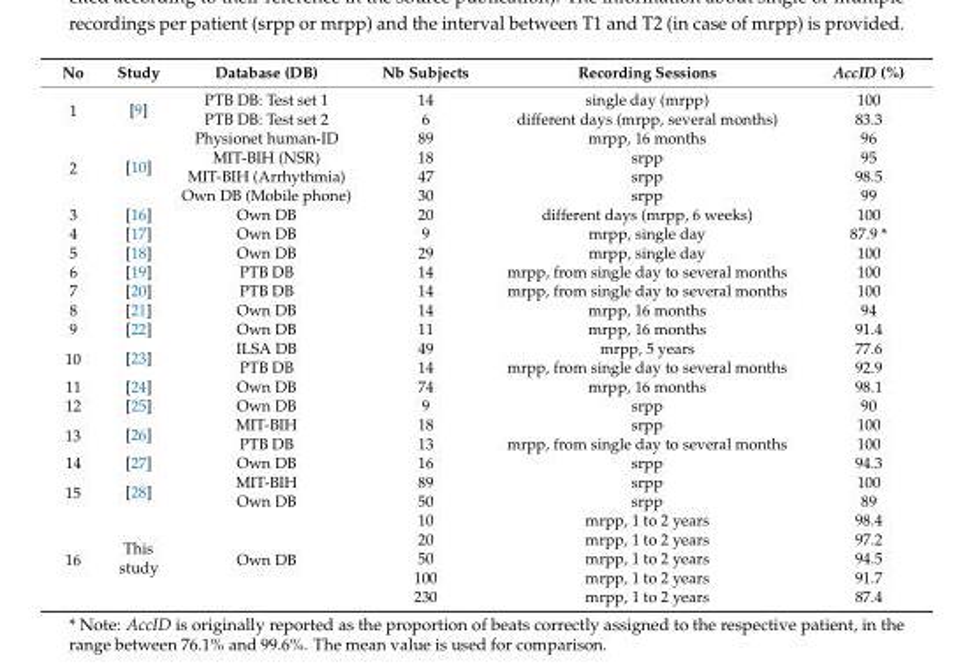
<table><thead><tr><td>No</td><td>Study</td><td>Database (DB)</td><td>Nb Subjects</td><td>Recording Sessions</td><td>AccID (%)</td></tr></thead><tbody><tr><td rowspan="2">1</td><td rowspan="2">[9]</td><td>PTB DB: Test set 1</td><td>14</td><td>single day (mrpp)</td><td>100</td></tr><tr><td>PTB DB: Test set 2</td><td>6</td><td>different days (mrpp, several months)</td><td>83.3</td></tr><tr><td rowspan="4">2</td><td rowspan="4">[10]</td><td>Physionet human-ID</td><td>89</td><td>mrpp, 16 months</td><td>96</td></tr><tr><td>MIT-BIH (NSR)</td><td>18</td><td>srpp</td><td>95</td></tr><tr><td>MIT-BIH (Arrhythmia)</td><td>47</td><td>srpp</td><td>98.5</td></tr><tr><td>Own DB (Mobile phone)</td><td>30</td><td>srpp</td><td>99</td></tr><tr><td>3</td><td>[16]</td><td>Own DB</td><td>20</td><td>different days (mrpp, 6 weeks)</td><td>100</td></tr><tr><td>4</td><td>[17]</td><td>Own DB</td><td>9</td><td>mrpp, single day</td><td>87.9 *</td></tr><tr><td>5</td><td>[18]</td><td>Own DB</td><td>29</td><td>mrpp, single day</td><td>100</td></tr><tr><td>6</td><td>[19]</td><td>PTB DB</td><td>14</td><td>mrpp, from single day to several months</td><td>100</td></tr><tr><td>7</td><td>[20]</td><td>PTB DB</td><td>14</td><td>mrpp, from single day to several months</td><td>100</td></tr><tr><td>8</td><td>[21]</td><td>Own DB</td><td>14</td><td>mrpp, 16 months</td><td>94</td></tr><tr><td>9</td><td>[22]</td><td>Own DB</td><td>11</td><td>mrpp, 16 months</td><td>91.4</td></tr><tr><td rowspan="2">10</td><td rowspan="2">[23]</td><td>ILSA DB</td><td>49</td><td>mrpp, 5 years</td><td>77.6</td></tr><tr><td>PTB DB</td><td>14</td><td>mrpp, from single day to several months</td><td>92.9</td></tr><tr><td>11</td><td>[24]</td><td>Own DB</td><td>74</td><td>mrpp, 16 months</td><td>98.1</td></tr><tr><td>12</td><td>[25]</td><td>Own DB</td><td>9</td><td>srpp</td><td>90</td></tr><tr><td rowspan="2">13</td><td rowspan="2">[26]</td><td>MIT-BIH</td><td>18</td><td>srpp</td><td>100</td></tr><tr><td>PTB DB</td><td>13</td><td>mrpp, from single day to several months</td><td>100</td></tr><tr><td>14</td><td>[27]</td><td>Own DB</td><td>16</td><td>srpp</td><td>94.3</td></tr><tr><td rowspan="2">15</td><td rowspan="2">[28]</td><td>MIT-BIH</td><td>89</td><td>srpp</td><td>100</td></tr><tr><td>Own DB</td><td>50</td><td>srpp</td><td>89</td></tr><tr><td rowspan="5">16</td><td rowspan="5">This study</td><td rowspan="5">Own DB</td><td>10</td><td>mrpp, 1 to 2 years</td><td>98.4</td></tr><tr><td>20</td><td>mrpp, 1 to 2 years</td><td>97.2</td></tr><tr><td>50</td><td>mrpp, 1 to 2 years</td><td>94.5</td></tr><tr><td>100</td><td>mrpp, 1 to 2 years</td><td>91.7</td></tr><tr><td>230</td><td>mrpp, 1 to 2 years</td><td>87.4</td></tr></tbody></table>